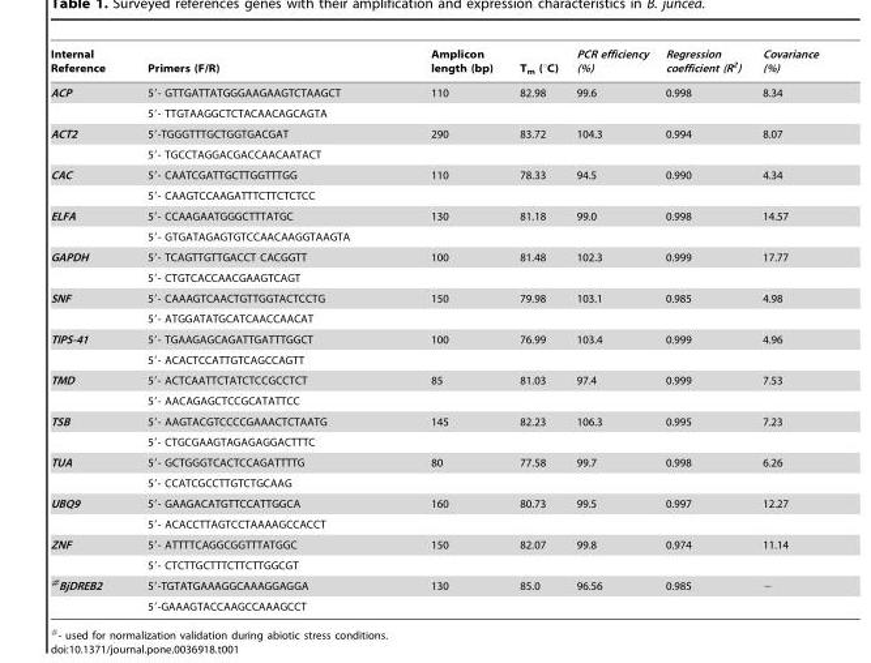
<table><thead><tr><td>Internal Reference</td><td>Primers (F/R)</td><td>Amplicon length (bp)</td><td>T<sub>m</sub> (°C)</td><td>PCR efficiency (%)</td><td>Regression coefficient (R<sup>2</sup>)</td><td>Covariance (%)</td></tr></thead><tbody><tr><td rowspan="2">ACP</td><td>5′- GTTGATTATGGGAAGAAGTCTAAGCT</td><td>110</td><td>82.98</td><td>99.6</td><td>0.998</td><td>8.34</td></tr><tr><td>5′- TTGTAAGGCTCTACAACAGCAGTA</td><td></td><td></td><td></td><td></td><td></td></tr><tr><td rowspan="2">ACT2</td><td>5′-TGGGTTTGCTGGTGACGAT</td><td>290</td><td>83.72</td><td>104.3</td><td>0.994</td><td>8.07</td></tr><tr><td>5′- TGCCTAGGACGACCAACAATACT</td><td></td><td></td><td></td><td></td><td></td></tr><tr><td rowspan="2">CAC</td><td>5′- CAATCGATTGCTTGGTTTGG</td><td>110</td><td>78.33</td><td>94.5</td><td>0.990</td><td>4.34</td></tr><tr><td>5′- CAAGTCCAAGATTTCTTCTCTCC</td><td></td><td></td><td></td><td></td><td></td></tr><tr><td rowspan="2">ELFA</td><td>5′- CCAAGAATGGGCTTTATGC</td><td>130</td><td>81.18</td><td>99.0</td><td>0.998</td><td>14.57</td></tr><tr><td>5′- GTGATAGAGTGTCCAACAAGGTAAGTA</td><td></td><td></td><td></td><td></td><td></td></tr><tr><td rowspan="2">GAPDH</td><td>5′- TCAGTTGTTGACCT CACGGTT</td><td>100</td><td>81.48</td><td>102.3</td><td>0.999</td><td>17.77</td></tr><tr><td>5′- CTGTCACCAACGAAGTCAGT</td><td></td><td></td><td></td><td></td><td></td></tr><tr><td rowspan="2">SNF</td><td>5′- CAAAGTCAACTGTTGGTACTCCTG</td><td>150</td><td>79.98</td><td>103.1</td><td>0.985</td><td>4.98</td></tr><tr><td>5′- ATGGATATGCATCAACCAACAT</td><td></td><td></td><td></td><td></td><td></td></tr><tr><td rowspan="2">TIPS-41</td><td>5′- TGAAGAGCAGATTGATTTGGCT</td><td>100</td><td>76.99</td><td>103.4</td><td>0.999</td><td>4.96</td></tr><tr><td>5′- ACACTCCATTGTCAGCCAGTT</td><td></td><td></td><td></td><td></td><td></td></tr><tr><td rowspan="2">TMD</td><td>5′- ACTCAATTCTATCTCCGCCTCT</td><td>85</td><td>81.03</td><td>97.4</td><td>0.999</td><td>7.53</td></tr><tr><td>5′- AACAGAGCTCCGCATATTCC</td><td></td><td></td><td></td><td></td><td></td></tr><tr><td rowspan="2">TSB</td><td>5′- AAGTACGTCCCCGAAACTCTAATG</td><td>145</td><td>82.23</td><td>106.3</td><td>0.995</td><td>7.23</td></tr><tr><td>5′- CTGCGAAGTAGAGAGGACTTTC</td><td></td><td></td><td></td><td></td><td></td></tr><tr><td rowspan="2">TUA</td><td>5′- GCTGGGTCACTCCAGATTTTG</td><td>80</td><td>77.58</td><td>99.7</td><td>0.998</td><td>6.26</td></tr><tr><td>5′- CCATCGCCTTGTCTGCAAG</td><td></td><td></td><td></td><td></td><td></td></tr><tr><td rowspan="2">UBQ9</td><td>5′- GAAGACATGTTCCATTGGCA</td><td>160</td><td>80.73</td><td>99.5</td><td>0.997</td><td>12.27</td></tr><tr><td>5′- ACACCTTAGTCCTAAAAGCCACCT</td><td></td><td></td><td></td><td></td><td></td></tr><tr><td rowspan="2">ZNF</td><td>5′- ATTTTCAGGCGGTTTATGGC</td><td>150</td><td>82.07</td><td>99.8</td><td>0.974</td><td>11.14</td></tr><tr><td>5′- CTCTTGCTTTCTTCTTGGCGT</td><td></td><td></td><td></td><td></td><td></td></tr><tr><td rowspan="2">#BjDREB2</td><td>5′-TGTATGAAAGGCAAAGGAGGA</td><td>130</td><td>85.0</td><td>96.56</td><td>0.985</td><td>−</td></tr><tr><td>5′-GAAAGTACCAAGCCAAAGCCT</td><td></td><td></td><td></td><td></td><td></td></tr></tbody></table>